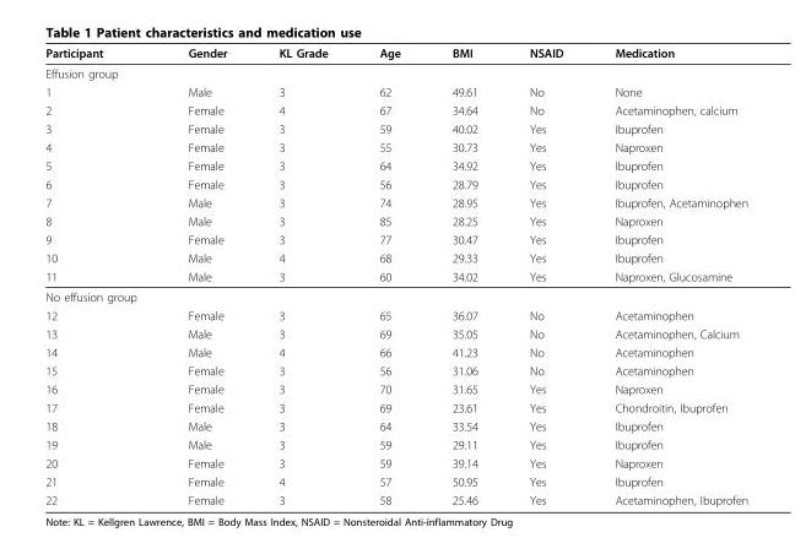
<table><thead><tr><td>Participant</td><td>Gender</td><td>KL Grade</td><td>Age</td><td>BMI</td><td>NSAID</td><td>Medication</td></tr></thead><tbody><tr><td colspan="7">Effusion group</td></tr><tr><td>1</td><td>Male</td><td>3</td><td>62</td><td>49.61</td><td>No</td><td>None</td></tr><tr><td>2</td><td>Female</td><td>4</td><td>67</td><td>34.64</td><td>No</td><td>Acetaminophen, calcium</td></tr><tr><td>3</td><td>Female</td><td>3</td><td>59</td><td>40.02</td><td>Yes</td><td>Ibuprofen</td></tr><tr><td>4</td><td>Female</td><td>3</td><td>55</td><td>30.73</td><td>Yes</td><td>Naproxen</td></tr><tr><td>5</td><td>Female</td><td>3</td><td>64</td><td>34.92</td><td>Yes</td><td>Ibuprofen</td></tr><tr><td>6</td><td>Female</td><td>3</td><td>56</td><td>28.79</td><td>Yes</td><td>Ibuprofen</td></tr><tr><td>7</td><td>Male</td><td>3</td><td>74</td><td>28.95</td><td>Yes</td><td>Ibuprofen, Acetaminophen</td></tr><tr><td>8</td><td>Male</td><td>3</td><td>85</td><td>28.25</td><td>Yes</td><td>Naproxen</td></tr><tr><td>9</td><td>Female</td><td>3</td><td>77</td><td>30.47</td><td>Yes</td><td>Ibuprofen</td></tr><tr><td>10</td><td>Male</td><td>4</td><td>68</td><td>29.33</td><td>Yes</td><td>Ibuprofen</td></tr><tr><td>11</td><td>Male</td><td>3</td><td>60</td><td>34.02</td><td>Yes</td><td>Naproxen, Glucosamine</td></tr><tr><td colspan="7">No effusion group</td></tr><tr><td>12</td><td>Female</td><td>3</td><td>65</td><td>36.07</td><td>No</td><td>Acetaminophen</td></tr><tr><td>13</td><td>Male</td><td>3</td><td>69</td><td>35.05</td><td>No</td><td>Acetaminophen, Calcium</td></tr><tr><td>14</td><td>Male</td><td>4</td><td>66</td><td>41.23</td><td>No</td><td>Acetaminophen</td></tr><tr><td>15</td><td>Female</td><td>3</td><td>56</td><td>31.06</td><td>No</td><td>Acetaminophen</td></tr><tr><td>16</td><td>Female</td><td>3</td><td>70</td><td>31.65</td><td>Yes</td><td>Naproxen</td></tr><tr><td>17</td><td>Female</td><td>3</td><td>69</td><td>23.61</td><td>Yes</td><td>Chondroitin, Ibuprofen</td></tr><tr><td>18</td><td>Male</td><td>3</td><td>64</td><td>33.54</td><td>Yes</td><td>Ibuprofen</td></tr><tr><td>19</td><td>Male</td><td>3</td><td>59</td><td>29.11</td><td>Yes</td><td>Ibuprofen</td></tr><tr><td>20</td><td>Female</td><td>3</td><td>59</td><td>39.14</td><td>Yes</td><td>Naproxen</td></tr><tr><td>21</td><td>Female</td><td>4</td><td>57</td><td>50.95</td><td>Yes</td><td>Ibuprofen</td></tr><tr><td>22</td><td>Female</td><td>3</td><td>58</td><td>25.46</td><td>Yes</td><td>Acetaminophen, Ibuprofen</td></tr></tbody></table>